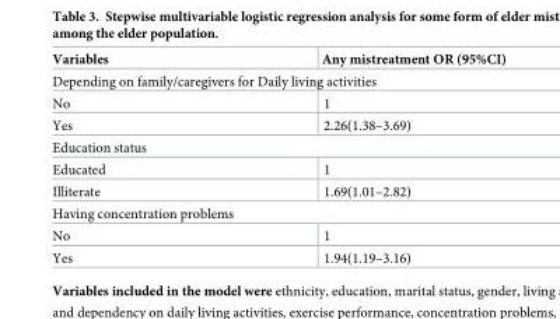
<table><thead><tr><td>Variables</td><td>Any mistreatment OR (95%CI)</td></tr></thead><tbody><tr><td colspan="2">Depending on family/caregivers for Daily living activities</td></tr><tr><td>No</td><td>1</td></tr><tr><td>Yes</td><td>2.26(1.38–3.69)</td></tr><tr><td colspan="2">Education status</td></tr><tr><td>Educated</td><td>1</td></tr><tr><td>Illiterate</td><td>1.69(1.01–2.82)</td></tr><tr><td colspan="2">Having concentration problems</td></tr><tr><td>No</td><td>1</td></tr><tr><td>Yes</td><td>1.94(1.19–3.16)</td></tr></tbody></table>